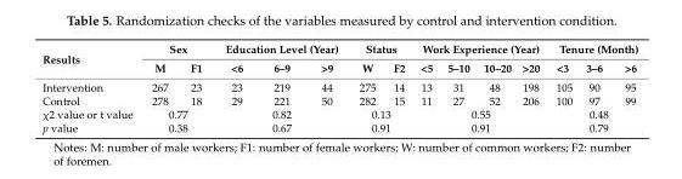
<table><thead><tr><td rowspan="2">Results</td><td colspan="2">Sex</td><td colspan="3">Education Level (Year)</td><td colspan="2">Status</td><td colspan="4">Work Experience (Year)</td><td colspan="3">Tenure (Month)</td></tr><tr><td>M</td><td>F1</td><td>&lt;6</td><td>6–9</td><td>&gt;9</td><td>W</td><td>F2</td><td>&lt;5</td><td>5–10</td><td>10–20</td><td>&gt;20</td><td>&lt;3</td><td>3–6</td><td>&gt;6</td></tr></thead><tbody><tr><td>Intervention</td><td>267</td><td>23</td><td>23</td><td>219</td><td>44</td><td>275</td><td>14</td><td>13</td><td>31</td><td>48</td><td>198</td><td>105</td><td>90</td><td>95</td></tr><tr><td>Control</td><td>278</td><td>18</td><td>29</td><td>221</td><td>50</td><td>282</td><td>15</td><td>11</td><td>27</td><td>52</td><td>206</td><td>100</td><td>97</td><td>99</td></tr><tr><td>χ2 value or t value</td><td colspan="2">0.77</td><td colspan="3">0.82</td><td colspan="2">0.13</td><td colspan="4">0.55</td><td colspan="3">0.48</td></tr><tr><td>p value</td><td colspan="2">0.38</td><td colspan="3">0.67</td><td colspan="2">0.91</td><td colspan="4">0.91</td><td colspan="3">0.79</td></tr></tbody></table>